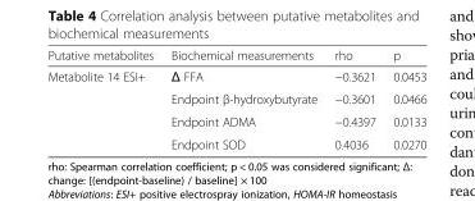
<table><thead><tr><td>Putative metabolites</td><td>Biochemical measurements</td><td>rho</td><td>p</td></tr></thead><tbody><tr><td rowspan="4">Metabolite 14 ESI+</td><td>Δ FFA</td><td>−0.3621</td><td>0.0453</td></tr><tr><td>Endpoint β-hydroxybutyrate</td><td>−0.3601</td><td>0.0466</td></tr><tr><td>Endpoint ADMA</td><td>−0.4397</td><td>0.0133</td></tr><tr><td>Endpoint SOD</td><td>0.4036</td><td>0.0270</td></tr></tbody></table>